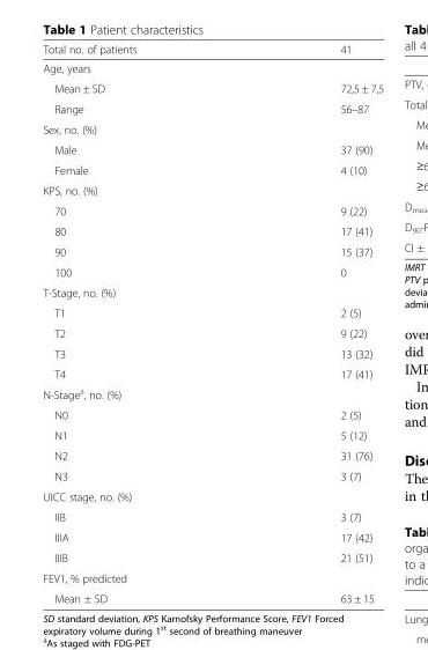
<table><thead><tr><td>Total no. of patients</td><td>41</td></tr></thead><tbody><tr><td colspan="2">Age, years</td></tr><tr><td>Mean ± SD</td><td>72,5 ± 7,5</td></tr><tr><td>Range</td><td>56–87</td></tr><tr><td colspan="2">Sex, no. (%)</td></tr><tr><td>Male</td><td>37 (90)</td></tr><tr><td>Female</td><td>4 (10)</td></tr><tr><td colspan="2">KPS, no. (%)</td></tr><tr><td>70</td><td>9 (22)</td></tr><tr><td>80</td><td>17 (41)</td></tr><tr><td>90</td><td>15 (37)</td></tr><tr><td>100</td><td>0</td></tr><tr><td colspan="2">T-Stage, no. (%)</td></tr><tr><td>T1</td><td>2 (5)</td></tr><tr><td>T2</td><td>9 (22)</td></tr><tr><td>T3</td><td>13 (32)</td></tr><tr><td>T4</td><td>17 (41)</td></tr><tr><td colspan="2">N-Stage<sup>a</sup>, no. (%)</td></tr><tr><td>N0</td><td>2 (5)</td></tr><tr><td>N1</td><td>5 (12)</td></tr><tr><td>N2</td><td>31 (76)</td></tr><tr><td>N3</td><td>3 (7)</td></tr><tr><td colspan="2">UICC stage, no. (%)</td></tr><tr><td>IIB</td><td>3 (7)</td></tr><tr><td>IIIA</td><td>17 (42)</td></tr><tr><td>IIIB</td><td>21 (51)</td></tr><tr><td colspan="2">FEV1, % predicted</td></tr><tr><td>Mean ± SD</td><td>63 ± 15</td></tr></tbody></table>